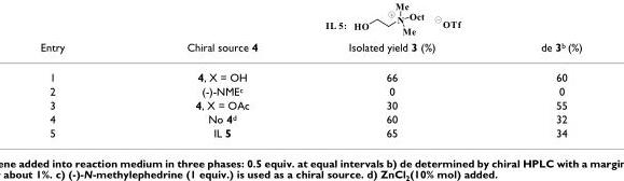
<table><thead><tr><td>Entry</td><td>Chiral source 4</td><td>Isolated yield 3 (%)</td><td>de 3<sup>b</sup> (%)</td></tr></thead><tbody><tr><td>1</td><td>4, X = OH</td><td>66</td><td>60</td></tr><tr><td>2</td><td>(-)-NME<sup>c</sup></td><td>0</td><td>0</td></tr><tr><td>3</td><td>4, X = OAc</td><td>30</td><td>55</td></tr><tr><td>4</td><td>No 4<sup>d</sup></td><td>60</td><td>32</td></tr><tr><td>5</td><td>IL 5</td><td>65</td><td>34</td></tr></tbody></table>